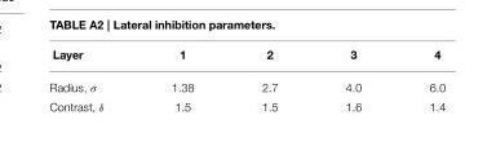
<table><thead><tr><td>Layer</td><td>1</td><td>2</td><td>3</td><td>4</td></tr></thead><tbody><tr><td>Radius, σ</td><td>1.38</td><td>2.7</td><td>4.0</td><td>6.0</td></tr><tr><td>Contrast, δ</td><td>1.5</td><td>1.5</td><td>1.6</td><td>1.4</td></tr></tbody></table>